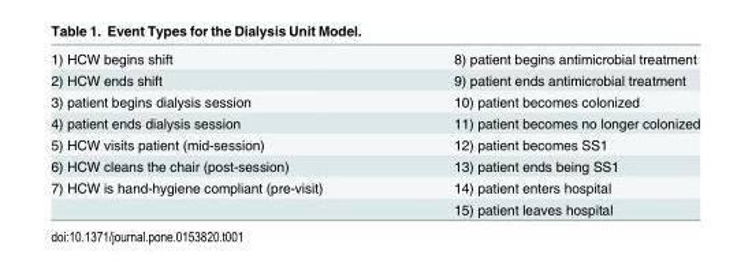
<table><tbody><tr><td>1) HCW begins shift</td><td>8) patient begins antimicrobial treatment</td></tr><tr><td>2) HCW ends shift</td><td>9) patient ends antimicrobial treatment</td></tr><tr><td>3) patient begins dialysis session</td><td>10) patient becomes colonized</td></tr><tr><td>4) patient ends dialysis session</td><td>11) patient becomes no longer colonized</td></tr><tr><td>5) HCW visits patient (mid-session)</td><td>12) patient becomes SS1</td></tr><tr><td>6) HCW cleans the chair (post-session)</td><td>13) patient ends being SS1</td></tr><tr><td rowspan="2">7) HCW is hand-hygiene compliant (pre-visit)</td><td>14) patient enters hospital</td></tr><tr><td>15) patient leaves hospital</td></tr></tbody></table>